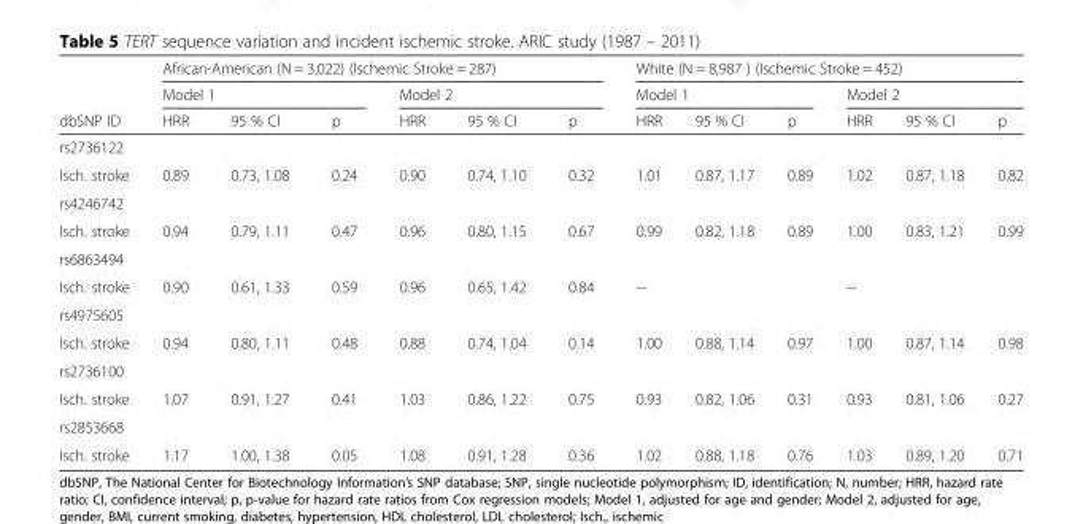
<table><thead><tr><td rowspan="3">dbSNP ID</td><td colspan="6">African-American (N = 3,022) (Ischemic Stroke = 287)</td><td colspan="6">White (N = 8,987 ) (Ischemic Stroke = 452)</td></tr><tr><td colspan="3">Model 1</td><td colspan="3">Model 2</td><td colspan="3">Model 1</td><td colspan="3">Model 2</td></tr><tr><td>HRR</td><td>95 % CI</td><td>p</td><td>HRR</td><td>95 % CI</td><td>p</td><td>HRR</td><td>95 % CI</td><td>p</td><td>HRR</td><td>95 % CI</td><td>p</td></tr></thead><tbody><tr><td colspan="13">rs2736122</td></tr><tr><td>Isch. stroke</td><td>0.89</td><td>0.73, 1.08</td><td>0.24</td><td>0.90</td><td>0.74, 1.10</td><td>0.32</td><td>1.01</td><td>0.87, 1.17</td><td>0.89</td><td>1.02</td><td>0.87, 1.18</td><td>0.82</td></tr><tr><td colspan="13">rs4246742</td></tr><tr><td>Isch. stroke</td><td>0.94</td><td>0.79, 1.11</td><td>0.47</td><td>0.96</td><td>0.80, 1.15</td><td>0.67</td><td>0.99</td><td>0.82, 1.18</td><td>0.89</td><td>1.00</td><td>0.83, 1.21</td><td>0.99</td></tr><tr><td colspan="13">rs6863494</td></tr><tr><td>Isch. stroke</td><td>0.90</td><td>0.61, 1.33</td><td>0.59</td><td>0.96</td><td>0.65, 1.42</td><td>0.84</td><td>--</td><td></td><td></td><td>--</td><td></td><td></td></tr><tr><td colspan="13">rs4975605</td></tr><tr><td>Isch. stroke</td><td>0.94</td><td>0.80, 1.11</td><td>0.48</td><td>0.88</td><td>0.74, 1.04</td><td>0.14</td><td>1.00</td><td>0.88, 1.14</td><td>0.97</td><td>1.00</td><td>0.87, 1.14</td><td>0.98</td></tr><tr><td colspan="13">rs2736100</td></tr><tr><td>Isch. stroke</td><td>1.07</td><td>0.91, 1.27</td><td>0.41</td><td>1.03</td><td>0.86, 1.22</td><td>0.75</td><td>0.93</td><td>0.82, 1.06</td><td>0.31</td><td>0.93</td><td>0.81, 1.06</td><td>0.27</td></tr><tr><td colspan="13">rs2853668</td></tr><tr><td>Isch. stroke</td><td>1.17</td><td>1.00, 1.38</td><td>0.05</td><td>1.08</td><td>0.91, 1.28</td><td>0.36</td><td>1.02</td><td>0.88, 1.18</td><td>0.76</td><td>1.03</td><td>0.89, 1.20</td><td>0.71</td></tr></tbody></table>